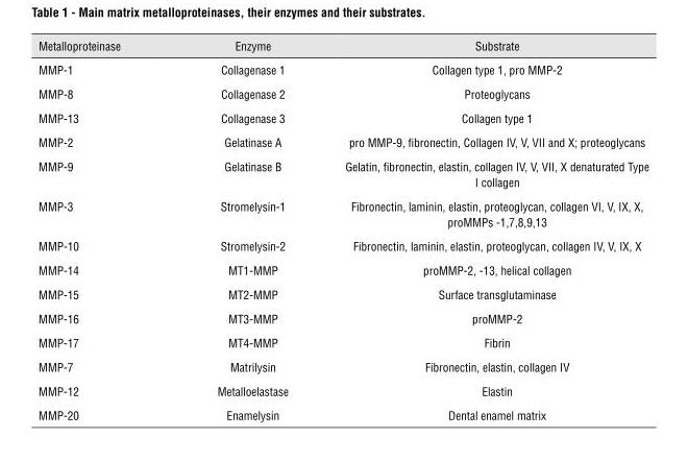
<table><thead><tr><td>Metalloproteinase</td><td>Enzyme</td><td>Substrate</td></tr></thead><tbody><tr><td>MMP-1</td><td>Collagenase 1</td><td>Collagen type 1, pro MMP-2</td></tr><tr><td>MMP-8</td><td>Collagenase 2</td><td>Proteoglycans</td></tr><tr><td>MMP-13</td><td>Collagenase 3</td><td>Collagen type 1</td></tr><tr><td>MMP-2</td><td>Gelatinase A</td><td>pro MMP-9, fibronectin, Collagen IV, V, VII and X; proteoglycans</td></tr><tr><td>MMP-9</td><td>Gelatinase B</td><td>Gelatin, fibronectin, elastin, collagen IV, V, VII, X denaturated Type I collagen</td></tr><tr><td>MMP-3</td><td>Stromelysin-1</td><td>Fibronectin, laminin, elastin, proteoglycan, collagen VI, V, IX, X, proMMPs -1,7,8,9,13</td></tr><tr><td>MMP-10</td><td>Stromelysin-2</td><td>Fibronectin, laminin, elastin, proteoglycan, collagen IV, V, IX, X</td></tr><tr><td>MMP-14</td><td>MT1-MMP</td><td>proMMP-2, -13, helical collagen</td></tr><tr><td>MMP-15</td><td>MT2-MMP</td><td>Surface transglutaminase</td></tr><tr><td>MMP-16</td><td>MT3-MMP</td><td>proMMP-2</td></tr><tr><td>MMP-17</td><td>MT4-MMP</td><td>Fibrin</td></tr><tr><td>MMP-7</td><td>Matrilysin</td><td>Fibronectin, elastin, collagen IV</td></tr><tr><td>MMP-12</td><td>Metalloelastase</td><td>Elastin</td></tr><tr><td>MMP-20</td><td>Enamelysin</td><td>Dental enamel matrix</td></tr></tbody></table>